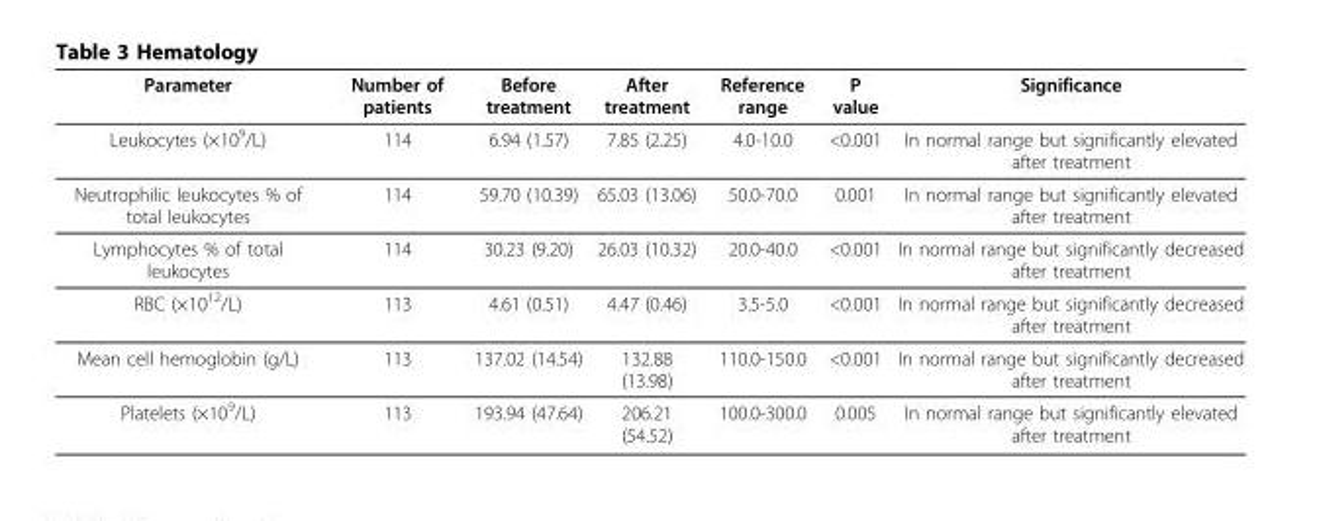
<table><thead><tr><td>Parameter</td><td>Number of patients</td><td>Before treatment</td><td>After treatment</td><td>Reference range</td><td>P value</td><td>Significance</td></tr></thead><tbody><tr><td>Leukocytes (×10<sup>9</sup>/L)</td><td>114</td><td>6.94 (1.57)</td><td>7.85 (2.25)</td><td>4.0-10.0</td><td>&lt;0.001</td><td>In normal range but significantly elevated after treatment</td></tr><tr><td>Neutrophilic leukocytes % of total leukocytes</td><td>114</td><td>59.70 (10.39)</td><td>65.03 (13.06)</td><td>50.0-70.0</td><td>0.001</td><td>In normal range but significantly elevated after treatment</td></tr><tr><td>Lymphocytes % of total leukocytes</td><td>114</td><td>30.23 (9.20)</td><td>26.03 (10.32)</td><td>20.0-40.0</td><td>&lt;0.001</td><td>In normal range but significantly decreased after treatment</td></tr><tr><td>RBC (×10<sup>12</sup>/L)</td><td>113</td><td>4.61 (0.51)</td><td>4.47 (0.46)</td><td>3.5-5.0</td><td>&lt;0.001</td><td>In normal range but significantly decreased after treatment</td></tr><tr><td>Mean cell hemoglobin (g/L)</td><td>113</td><td>137.02 (14.54)</td><td>132.88 (13.98)</td><td>110.0-150.0</td><td>&lt;0.001</td><td>In normal range but significantly decreased after treatment</td></tr><tr><td>Platelets (×10<sup>9</sup>/L)</td><td>113</td><td>193.94 (47.64)</td><td>206.21 (54.52)</td><td>100.0-300.0</td><td>0.005</td><td>In normal range but significantly elevated after treatment</td></tr></tbody></table>